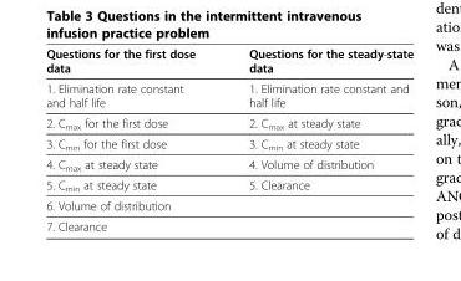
<table><thead><tr><td>Questions for the first dose data</td><td>Questions for the steady-state data</td></tr></thead><tbody><tr><td>1. Elimination rate constant and half life</td><td>1. Elimination rate constant and half life</td></tr><tr><td>2. C<sub>max</sub> for the first dose</td><td>2. C<sub>max</sub> at steady state</td></tr><tr><td>3. C<sub>min</sub> for the first dose</td><td>3. C<sub>min</sub> at steady state</td></tr><tr><td>4. C<sub>max</sub> at steady state</td><td>4. Volume of distribution</td></tr><tr><td>5. C<sub>min</sub> at steady state</td><td>5. Clearance</td></tr><tr><td colspan="2">6. Volume of distribution</td></tr><tr><td>7. Clearance</td><td></td></tr></tbody></table>